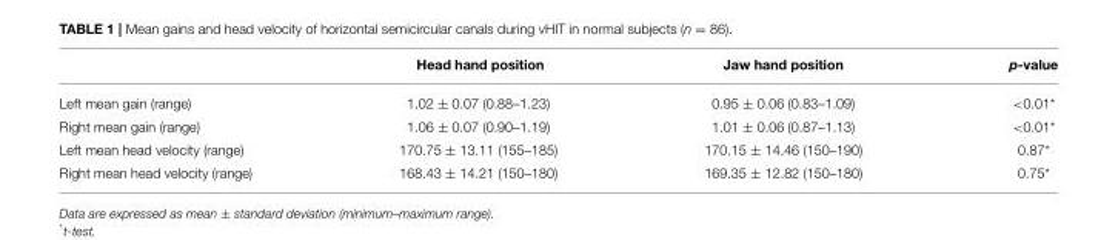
<table><thead><tr><td></td><td>Head hand position</td><td>Jaw hand position</td><td>p-value</td></tr></thead><tbody><tr><td>Left mean gain (range)</td><td>1.02 ± 0.07 (0.88–1.23)</td><td>0.95 ± 0.06 (0.83–1.09)</td><td>&lt;0.01*</td></tr><tr><td>Right mean gain (range)</td><td>1.06 ± 0.07 (0.90–1.19)</td><td>1.01 ± 0.06 (0.87–1.13)</td><td>&lt;0.01*</td></tr><tr><td>Left mean head velocity (range)</td><td>170.75 ± 13.11 (155–185)</td><td>170.15 ± 14.46 (150–190)</td><td>0.87*</td></tr><tr><td>Right mean head velocity (range)</td><td>168.43 ± 14.21 (150–180)</td><td>169.35 ± 12.82 (150–180)</td><td>0.75*</td></tr></tbody></table>